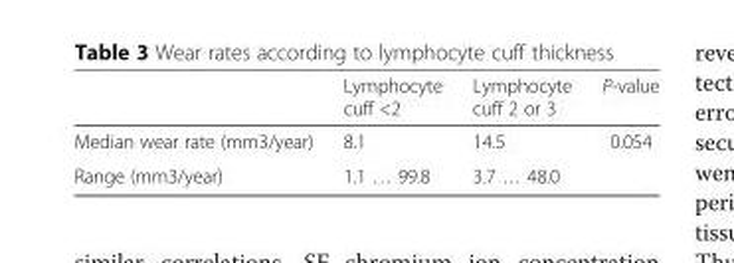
<table><thead><tr><td></td><td>Lymphocyte cuff &lt;2</td><td>Lymphocyte cuff 2 or 3</td><td>P-value</td></tr></thead><tbody><tr><td>Median wear rate (mm3/year)</td><td>8.1</td><td>14.5</td><td>0.054</td></tr><tr><td>Range (mm3/year)</td><td>1.1 … 99.8</td><td>3.7 … 48.0</td><td></td></tr></tbody></table>